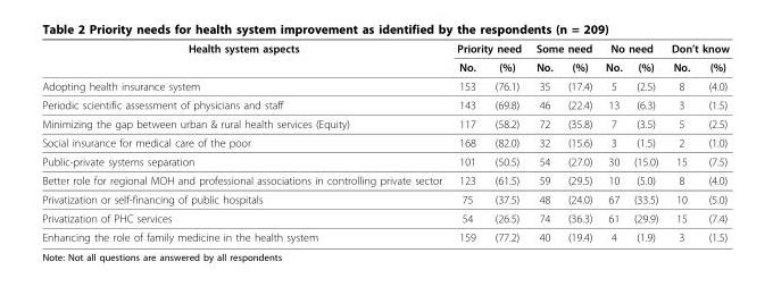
<table><thead><tr><td rowspan="2">Health system aspects</td><td colspan="2">Priority need</td><td colspan="2">Some need</td><td colspan="2">No need</td><td colspan="2">Don’t know</td></tr><tr><td>No.</td><td>(%)</td><td>No.</td><td>(%)</td><td>No.</td><td>(%)</td><td>No.</td><td>(%)</td></tr></thead><tbody><tr><td>Adopting health insurance system</td><td>153</td><td>(76.1)</td><td>35</td><td>(17.4)</td><td>5</td><td>(2.5)</td><td>8</td><td>(4.0)</td></tr><tr><td>Periodic scientific assessment of physicians and staff</td><td>143</td><td>(69.8)</td><td>46</td><td>(22.4)</td><td>13</td><td>(6.3)</td><td>3</td><td>(1.5)</td></tr><tr><td>Minimizing the gap between urban &amp; rural health services (Equity)</td><td>117</td><td>(58.2)</td><td>72</td><td>(35.8)</td><td>7</td><td>(3.5)</td><td>5</td><td>(2.5)</td></tr><tr><td>Social insurance for medical care of the poor</td><td>168</td><td>(82.0)</td><td>32</td><td>(15.6)</td><td>3</td><td>(1.5)</td><td>2</td><td>(1.0)</td></tr><tr><td>Public-private systems separation</td><td>101</td><td>(50.5)</td><td>54</td><td>(27.0)</td><td>30</td><td>(15.0)</td><td>15</td><td>(7.5)</td></tr><tr><td>Better role for regional MOH and professional associations in controlling private sector</td><td>123</td><td>(61.5)</td><td>59</td><td>(29.5)</td><td>10</td><td>(5.0)</td><td>8</td><td>(4.0)</td></tr><tr><td>Privatization or self-financing of public hospitals</td><td>75</td><td>(37.5)</td><td>48</td><td>(24.0)</td><td>67</td><td>(33.5)</td><td>10</td><td>(5.0)</td></tr><tr><td>Privatization of PHC services</td><td>54</td><td>(26.5)</td><td>74</td><td>(36.3)</td><td>61</td><td>(29.9)</td><td>15</td><td>(7.4)</td></tr><tr><td>Enhancing the role of family medicine in the health system</td><td>159</td><td>(77.2)</td><td>40</td><td>(19.4)</td><td>4</td><td>(1.9)</td><td>3</td><td>(1.5)</td></tr></tbody></table>